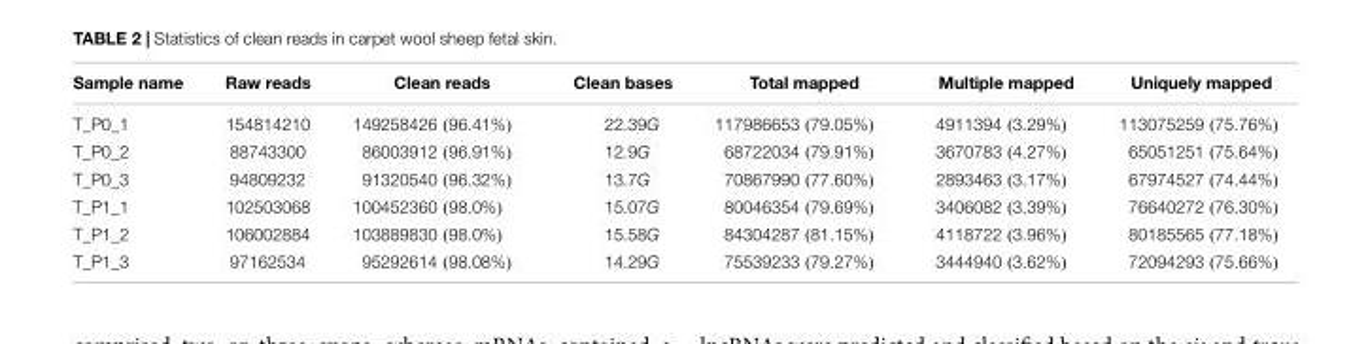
<table><thead><tr><td>Sample name</td><td>Raw reads</td><td>Clean reads</td><td>Clean bases</td><td>Total mapped</td><td>Multiple mapped</td><td>Uniquely mapped</td></tr></thead><tbody><tr><td>T_P0_1</td><td>154814210</td><td>149258426 (96.41%)</td><td>22.39G</td><td>117986653 (79.05%)</td><td>4911394 (3.29%)</td><td>113075259 (75.76%)</td></tr><tr><td>T_P0_2</td><td>88743300</td><td>86003912 (96.91%)</td><td>12.9G</td><td>68722034 (79.91%)</td><td>3670783 (4.27%)</td><td>65051251 (75.64%)</td></tr><tr><td>T_P0_3</td><td>94809232</td><td>91320540 (96.32%)</td><td>13.7G</td><td>70867990 (77.60%)</td><td>2893463 (3.17%)</td><td>67974527 (74.44%)</td></tr><tr><td>T_P1_1</td><td>102503068</td><td>100452360 (98.0%)</td><td>15.07G</td><td>80046354 (79.69%)</td><td>3406082 (3.39%)</td><td>76640272 (76.30%)</td></tr><tr><td>T_P1_2</td><td>106002884</td><td>103889830 (98.0%)</td><td>15.58G</td><td>84304287 (81.15%)</td><td>4118722 (3.96%)</td><td>80185565 (77.18%)</td></tr><tr><td>T_P1_3</td><td>97162534</td><td>95292614 (98.08%)</td><td>14.29G</td><td>75539233 (79.27%)</td><td>3444940 (3.62%)</td><td>72094293 (75.66%)</td></tr></tbody></table>